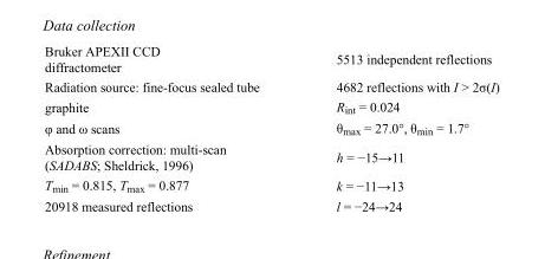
<table><tbody><tr><td>Bruker APEXII CCD diffractometer</td><td>5513 independent reflections</td></tr><tr><td>Radiation source: fine-focus sealed tube</td><td>4682 reflections with I &gt; 2σ(I)</td></tr><tr><td>graphite</td><td>R<sub>int</sub> = 0.024</td></tr><tr><td>φ and ω scans</td><td>θ<sub>max</sub> = 27.0°, θ<sub>min</sub> = 1.7°</td></tr><tr><td>Absorption correction: multi-scan (SADABS; Sheldrick, 1996)</td><td>h = −15→11</td></tr><tr><td>T<sub>min</sub> = 0.815, T<sub>max</sub> = 0.877</td><td>k = −11→13</td></tr><tr><td>20918 measured reflections</td><td>l = −24→24</td></tr></tbody></table>